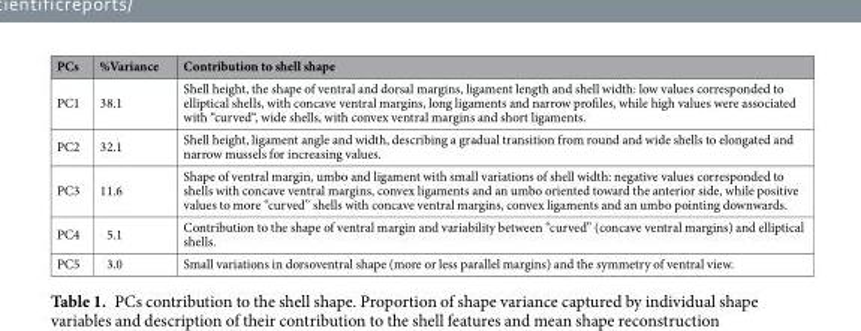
<table><thead><tr><td>PCs</td><td>%Variance</td><td>Contribution to shell shape</td></tr></thead><tbody><tr><td>PC1</td><td>38.1</td><td>Shell height, the shape of ventral and dorsal margins, ligament length and shell width: low values corresponded to elliptical shells, with concave ventral margins, long ligaments and narrow profiles, while high values were associated with “curved“, wide shells, with convex ventral margins and short ligaments.</td></tr><tr><td>PC2</td><td>32.1</td><td>Shell height, ligament angle and width, describing a gradual transition from round and wide shells to elongated and narrow mussels for increasing values.</td></tr><tr><td>PC3</td><td>11.6</td><td>Shape of ventral margin, umbo and ligament with small variations of shell width: negative values corresponded to shells with concave ventral margins, convex ligaments and an umbo oriented toward the anterior side, while positive values to more “curved” shells with concave ventral margins, convex ligaments and an umbo pointing downwards.</td></tr><tr><td>PC4</td><td>5.1</td><td>Contribution to the shape of ventral margin and variability between “curved” (concave ventral margins) and elliptical shells.</td></tr><tr><td>PC5</td><td>3.0</td><td>Small variations in dorsoventral shape (more or less parallel margins) and the symmetry of ventral view.</td></tr></tbody></table>